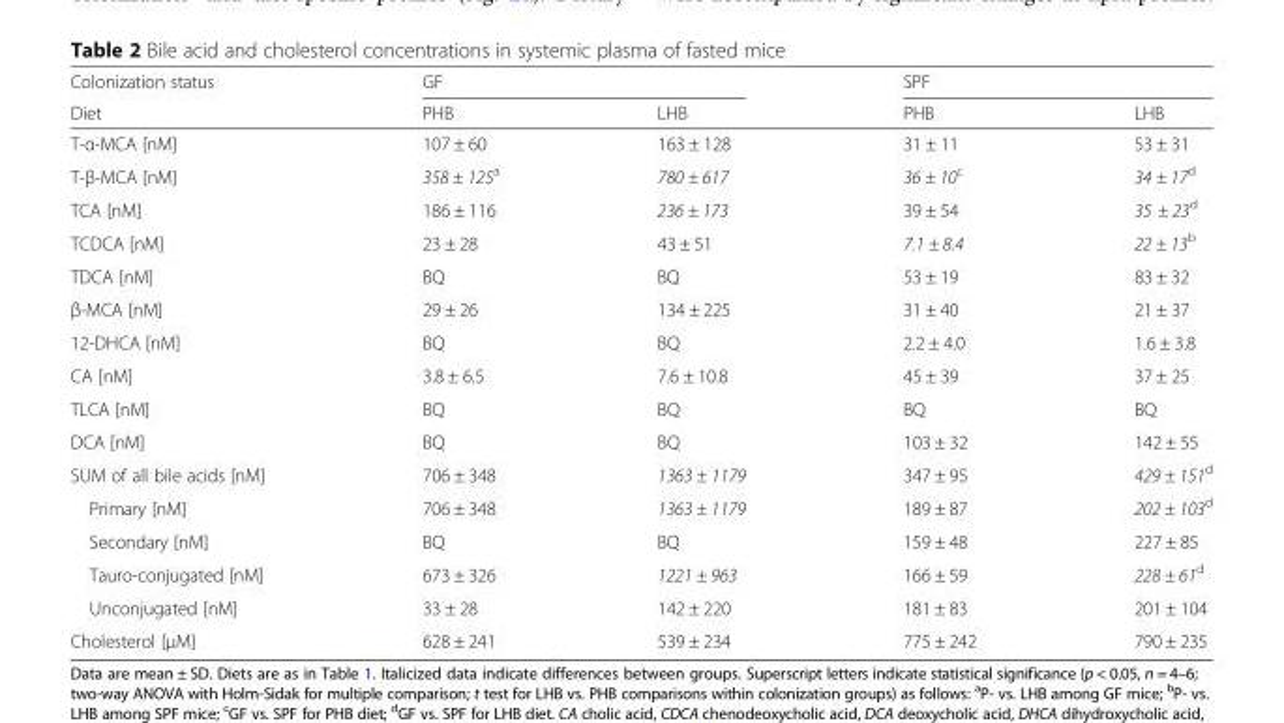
<table><thead><tr><td rowspan="2">Colonization status Diet</td><td colspan="2">GF</td><td colspan="2">SPF</td></tr><tr><td>PHB</td><td>LHB</td><td>PHB</td><td>LHB</td></tr></thead><tbody><tr><td>T-α-MCA [nM]</td><td>107 ± 60</td><td>163 ± 128</td><td>31 ± 11</td><td>53 ± 31</td></tr><tr><td>T-β-MCA [nM]</td><td>358 ± 125<sup>a</sup></td><td>780 ± 617</td><td>36 ± 10<sup>c</sup></td><td>34 ± 17<sup>d</sup></td></tr><tr><td>TCA [nM]</td><td>186 ± 116</td><td>236 ± 173</td><td>39 ± 54</td><td>35 ± 23<sup>d</sup></td></tr><tr><td>TCDCA [nM]</td><td>23 ± 28</td><td>43 ± 51</td><td>7.1 ± 8.4</td><td>22 ± 13<sup>b</sup></td></tr><tr><td>TDCA [nM]</td><td>BQ</td><td>BQ</td><td>53 ± 19</td><td>83 ± 32</td></tr><tr><td>β-MCA [nM]</td><td>29 ± 26</td><td>134 ± 225</td><td>31 ± 40</td><td>21 ± 37</td></tr><tr><td>12-DHCA [nM]</td><td>BQ</td><td>BQ</td><td>2.2 ± 4.0</td><td>1.6 ± 3.8</td></tr><tr><td>CA [nM]</td><td>3.8 ± 6.5</td><td>7.6 ± 10.8</td><td>45 ± 39</td><td>37 ± 25</td></tr><tr><td>TLCA [nM]</td><td>BQ</td><td>BQ</td><td>BQ</td><td>BQ</td></tr><tr><td>DCA [nM]</td><td>BQ</td><td>BQ</td><td>103 ± 32</td><td>142 ± 55</td></tr><tr><td>SUM of all bile acids [nM]</td><td>706 ± 348</td><td>1363 ± 1179</td><td>347 ± 95</td><td>429 ± 151<sup>d</sup></td></tr><tr><td>Primary [nM]</td><td>706 ± 348</td><td>1363 ± 1179</td><td>189 ± 87</td><td>202 ± 103<sup>d</sup></td></tr><tr><td>Secondary [nM]</td><td>BQ</td><td>BQ</td><td>159 ± 48</td><td>227 ± 85</td></tr><tr><td>Tauro-conjugated [nM]</td><td>673 ± 326</td><td>1221 ± 963</td><td>166 ± 59</td><td>228 ± 61<sup>d</sup></td></tr><tr><td>Unconjugated [nM]</td><td>33 ± 28</td><td>142 ± 220</td><td>181 ± 83</td><td>201 ± 104</td></tr><tr><td>Cholesterol [μM]</td><td>628 ± 241</td><td>539 ± 234</td><td>775 ± 242</td><td>790 ± 235</td></tr></tbody></table>